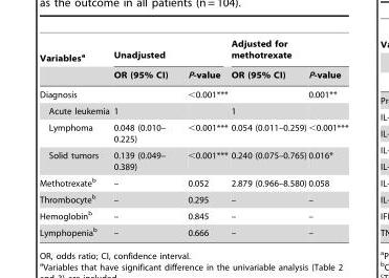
<table><thead><tr><td rowspan="2">Variables<sup>a</sup></td><td colspan="2">Unadjusted</td><td colspan="2">Adjusted for methotrexate</td></tr><tr><td>OR (95% CI)</td><td>P-value</td><td>OR (95% CI)</td><td>P-value</td></tr></thead><tbody><tr><td>Diagnosis</td><td></td><td>&lt;0.001***</td><td></td><td>0.001**</td></tr><tr><td>Acute leukemia</td><td>1</td><td></td><td>1</td><td></td></tr><tr><td>Lymphoma</td><td>0.048 (0.010– 0.225)</td><td>&lt;0.001***</td><td>0.054 (0.011–0.259)</td><td>&lt;0.001***</td></tr><tr><td>Solid tumors</td><td>0.139 (0.049– 0.389)</td><td>&lt;0.001***</td><td>0.240 (0.075–0.765)</td><td>0.016*</td></tr><tr><td>Methotrexate<sup>b</sup></td><td>–</td><td>0.052</td><td>2.879 (0.966–8.580)</td><td>0.058</td></tr><tr><td>Thrombocyte<sup>b</sup></td><td>–</td><td>0.295</td><td>–</td><td>–</td></tr><tr><td>Hemoglobin<sup>b</sup></td><td>–</td><td>0.845</td><td>–</td><td>–</td></tr><tr><td>Lymphopenia<sup>b</sup></td><td>–</td><td>0.666</td><td>–</td><td>–</td></tr></tbody></table>